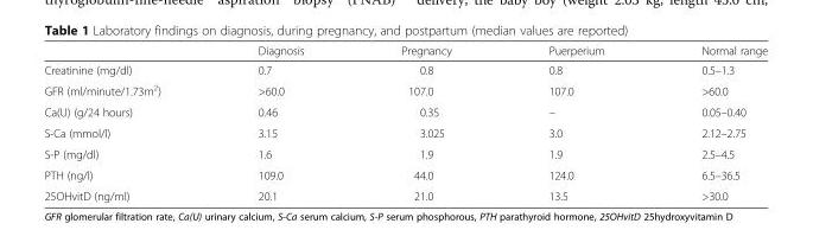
<table><thead><tr><td></td><td>Diagnosis</td><td>Pregnancy</td><td>Puerperium</td><td>Normal range</td></tr></thead><tbody><tr><td>Creatinine (mg/dl)</td><td>0.7</td><td>0.8</td><td>0.8</td><td>0.5–1.3</td></tr><tr><td>GFR (ml/minute/1.73m<sup>2</sup>)</td><td>&gt;60.0</td><td>107.0</td><td>107.0</td><td>&gt;60.0</td></tr><tr><td>Ca(U) (g/24 hours)</td><td>0.46</td><td>0.35</td><td>–</td><td>0.05–0.40</td></tr><tr><td>S-Ca (mmol/l)</td><td>3.15</td><td>3.025</td><td>3.0</td><td>2.12–2.75</td></tr><tr><td>S-P (mg/dl)</td><td>1.6</td><td>1.9</td><td>1.9</td><td>2.5–4.5</td></tr><tr><td>PTH (ng/l)</td><td>109.0</td><td>44.0</td><td>124.0</td><td>6.5–36.5</td></tr><tr><td>25OHvitD (ng/ml)</td><td>20.1</td><td>21.0</td><td>13.5</td><td>&gt;30.0</td></tr></tbody></table>